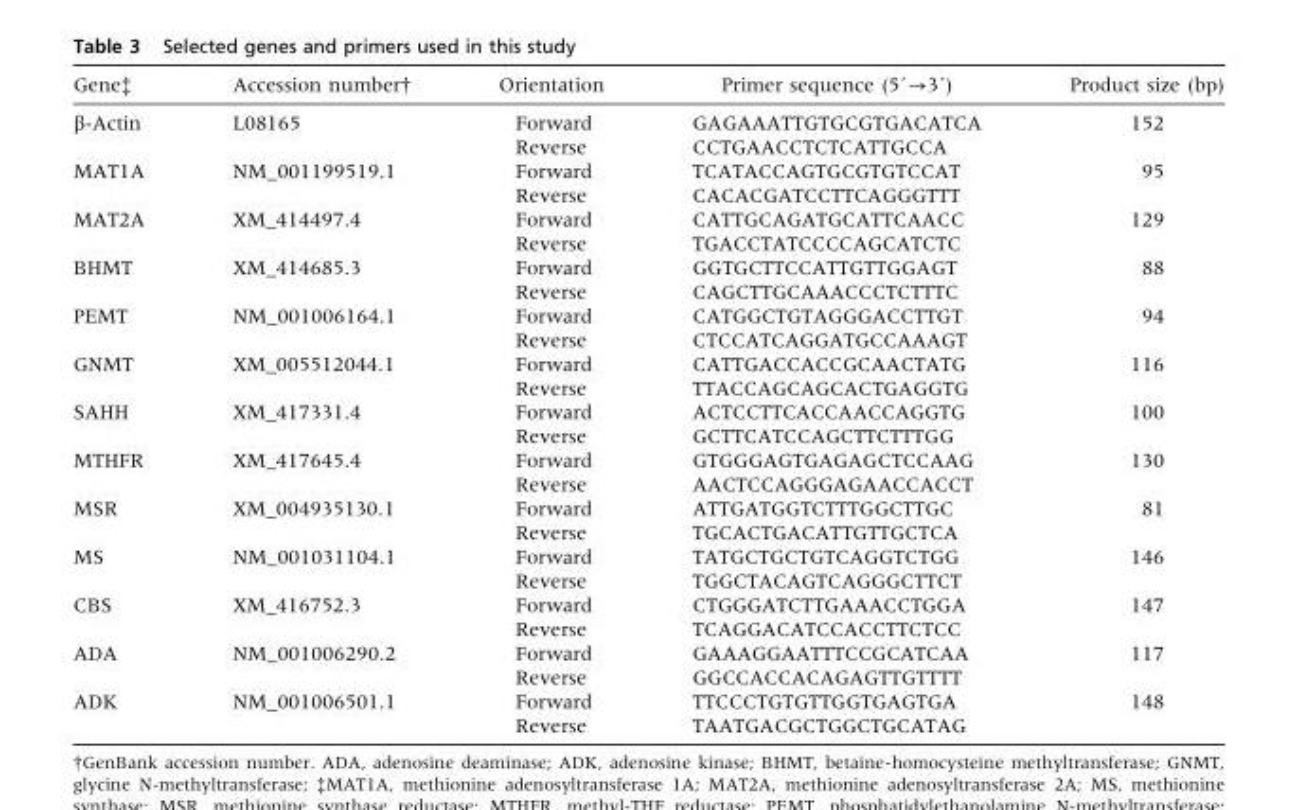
<table><thead><tr><td>Gene‡</td><td>Accession number†</td><td>Orientation</td><td>Primer sequence (5΄→3΄)</td><td>Product size (bp)</td></tr></thead><tbody><tr><td>β-Actin</td><td>L08165</td><td>Forward Reverse</td><td>GAGAAATTGTGCGTGACATCA CCTGAACCTCTCATTGCCA</td><td>152</td></tr><tr><td>MAT1A</td><td>NM_001199519.1</td><td>Forward Reverse</td><td>TCATACCAGTGCGTGTCCAT CACACGATCCTTCAGGGTTT</td><td>95</td></tr><tr><td>MAT2A</td><td>XM_414497.4</td><td>Forward Reverse</td><td>CATTGCAGATGCATTCAACC TGACCTATCCCCAGCATCTC</td><td>129</td></tr><tr><td>BHMT</td><td>XM_414685.3</td><td>Forward Reverse</td><td>GGTGCTTCCATTGTTGGAGT CAGCTTGCAAACCCTCTTTC</td><td>88</td></tr><tr><td>PEMT</td><td>NM_001006164.1</td><td>Forward Reverse</td><td>CATGGCTGTAGGGACCTTGT CTCCATCAGGATGCCAAAGT</td><td>94</td></tr><tr><td>GNMT</td><td>XM_005512044.1</td><td>Forward Reverse</td><td>CATTGACCACCGCAACTATG TTACCAGCAGCACTGAGGTG</td><td>116</td></tr><tr><td>SAHH</td><td>XM_417331.4</td><td>Forward Reverse</td><td>ACTCCTTCACCAACCAGGTG GCTTCATCCAGCTTCTTTGG</td><td>100</td></tr><tr><td>MTHFR</td><td>XM_417645.4</td><td>Forward Reverse</td><td>GTGGGAGTGAGAGCTCCAAG AACTCCAGGGAGAACCACCT</td><td>130</td></tr><tr><td>MSR</td><td>XM_004935130.1</td><td>Forward Reverse</td><td>ATTGATGGTCTTTGGCTTGC TGCACTGACATTGTTGCTCA</td><td>81</td></tr><tr><td>MS</td><td>NM_001031104.1</td><td>Forward Reverse</td><td>TATGCTGCTGTCAGGTCTGG TGGCTACAGTCAGGGCTTCT</td><td>146</td></tr><tr><td>CBS</td><td>XM_416752.3</td><td>Forward Reverse</td><td>CTGGGATCTTGAAACCTGGA TCAGGACATCCACCTTCTCC</td><td>147</td></tr><tr><td>ADA</td><td>NM_001006290.2</td><td>Forward Reverse</td><td>GAAAGGAATTTCCGCATCAA GGCCACCACAGAGTTGTTTT</td><td>117</td></tr><tr><td>ADK</td><td>NM_001006501.1</td><td>Forward Reverse</td><td>TTCCCTGTGTTGGTGAGTGA TAATGACGCTGGCTGCATAG</td><td>148</td></tr></tbody></table>